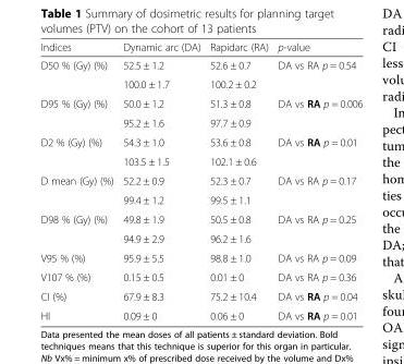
<table><thead><tr><td>Indices</td><td>Dynamic arc (DA)</td><td>Rapidarc (RA)</td><td>p-value</td></tr></thead><tbody><tr><td rowspan="2">D50 % (Gy) (%)</td><td>52.5 ± 1.2</td><td>52.6 ± 0.7</td><td rowspan="2">DA vs RA p = 0.54</td></tr><tr><td>100.0 ± 1.7</td><td>100.2 ± 0.2</td></tr><tr><td rowspan="2">D95 % (Gy) (%)</td><td>50.0 ± 1.2</td><td>51.3 ± 0.8</td><td rowspan="2">DA vs RA p = 0.006</td></tr><tr><td>95.2 ± 1.6</td><td>97.7 ± 0.9</td></tr><tr><td rowspan="2">D2 % (Gy) (%)</td><td>54.3 ± 1.0</td><td>53.6 ± 0.8</td><td rowspan="2">DA vs RA p = 0.01</td></tr><tr><td>103.5 ± 1.5</td><td>102.1 ± 0.6</td></tr><tr><td rowspan="2">D mean (Gy) (%)</td><td>52.2 ± 0.9</td><td>52.3 ± 0.7</td><td rowspan="2">DA vs RA p = 0.17</td></tr><tr><td>99.4 ± 1.2</td><td>99.5 ± 1.1</td></tr><tr><td rowspan="2">D98 % (Gy) (%)</td><td>49.8 ± 1.9</td><td>50.5 ± 0.8</td><td rowspan="2">DA vs RA p = 0.25</td></tr><tr><td>94.9 ± 2.9</td><td>96.2 ± 1.6</td></tr><tr><td>V95 % (%)</td><td>95.9 ± 5.5</td><td>98.8 ± 1.0</td><td>DA vs RA p = 0.09</td></tr><tr><td>V107 % (%)</td><td>0.15 ± 0.5</td><td>0.01 ± 0</td><td>DA vs RA p = 0.36</td></tr><tr><td>CI (%)</td><td>67.9 ± 8.3</td><td>75.2 ± 10.4</td><td>DA vs RA p = 0.04</td></tr><tr><td>HI</td><td>0.09 ± 0</td><td>0.06 ± 0</td><td>DA vs RA p = 0.01</td></tr></tbody></table>